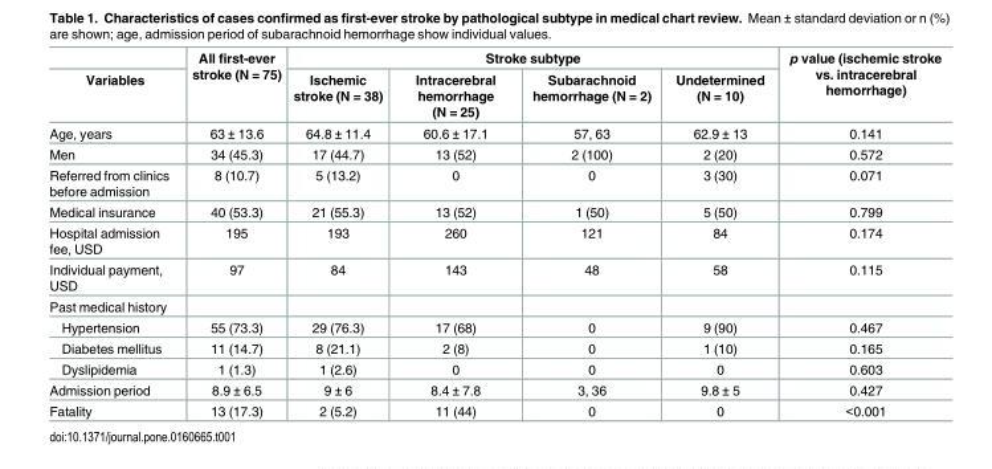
<table><thead><tr><td rowspan="2">Variables</td><td rowspan="2">All first-ever stroke (N = 75)</td><td colspan="4">Stroke subtype</td><td rowspan="2">p value (ischemic stroke vs. intracerebral hemorrhage)</td></tr><tr><td>Ischemic stroke (N = 38)</td><td>Intracerebral hemorrhage (N = 25)</td><td>Subarachnoid hemorrhage (N = 2)</td><td>Undetermined (N = 10)</td></tr></thead><tbody><tr><td>Age, years</td><td>63 ± 13.6</td><td>64.8 ± 11.4</td><td>60.6 ± 17.1</td><td>57, 63</td><td>62.9 ± 13</td><td>0.141</td></tr><tr><td>Men</td><td>34 (45.3)</td><td>17 (44.7)</td><td>13 (52)</td><td>2 (100)</td><td>2 (20)</td><td>0.572</td></tr><tr><td>Referred from clinics before admission</td><td>8 (10.7)</td><td>5 (13.2)</td><td>0</td><td>0</td><td>3 (30)</td><td>0.071</td></tr><tr><td>Medical insurance</td><td>40 (53.3)</td><td>21 (55.3)</td><td>13 (52)</td><td>1 (50)</td><td>5 (50)</td><td>0.799</td></tr><tr><td>Hospital admission fee, USD</td><td>195</td><td>193</td><td>260</td><td>121</td><td>84</td><td>0.174</td></tr><tr><td>Individual payment, USD</td><td>97</td><td>84</td><td>143</td><td>48</td><td>58</td><td>0.115</td></tr><tr><td colspan="7">Past medical history</td></tr><tr><td>Hypertension</td><td>55 (73.3)</td><td>29 (76.3)</td><td>17 (68)</td><td>0</td><td>9 (90)</td><td>0.467</td></tr><tr><td>Diabetes mellitus</td><td>11 (14.7)</td><td>8 (21.1)</td><td>2 (8)</td><td>0</td><td>1 (10)</td><td>0.165</td></tr><tr><td>Dyslipidemia</td><td>1 (1.3)</td><td>1 (2.6)</td><td>0</td><td>0</td><td>0</td><td>0.603</td></tr><tr><td>Admission period</td><td>8.9 ± 6.5</td><td>9 ± 6</td><td>8.4 ± 7.8</td><td>3, 36</td><td>9.8 ± 5</td><td>0.427</td></tr><tr><td>Fatality</td><td>13 (17.3)</td><td>2 (5.2)</td><td>11 (44)</td><td>0</td><td>0</td><td>&lt;0.001</td></tr></tbody></table>